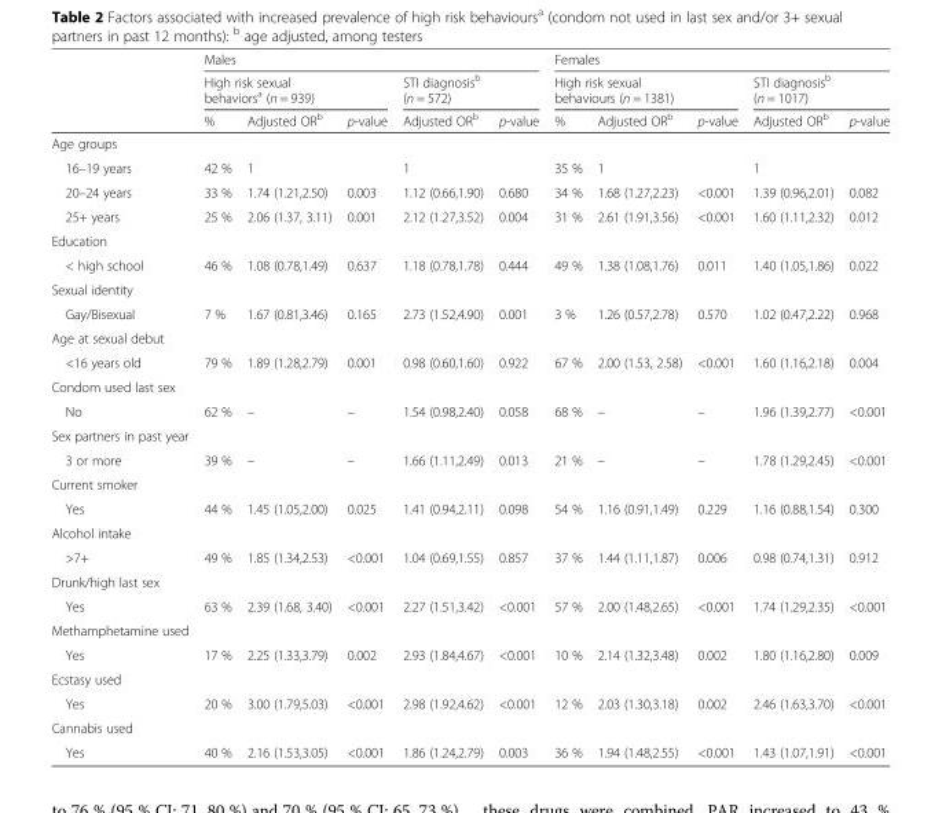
<table><thead><tr><td rowspan="3"></td><td colspan="5">Males</td><td colspan="5">Females</td></tr><tr><td colspan="3">High risk sexual behaviors<sup>a</sup> (n = 939)</td><td colspan="2">STI diagnosis<sup>b</sup> (n = 572)</td><td colspan="3">High risk sexual behaviours (n = 1381)</td><td colspan="2">STI diagnosis<sup>b</sup> (n = 1017)</td></tr><tr><td>%</td><td>Adjusted OR<sup>b</sup></td><td>p-value</td><td>Adjusted OR<sup>b</sup></td><td>p-value</td><td>%</td><td>Adjusted OR<sup>b</sup></td><td>p-value</td><td>Adjusted OR<sup>b</sup></td><td>p-value</td></tr></thead><tbody><tr><td colspan="11">Age groups</td></tr><tr><td>16–19 years</td><td>42 %</td><td>1</td><td></td><td>1</td><td></td><td>35 %</td><td>1</td><td></td><td>1</td><td></td></tr><tr><td>20–24 years</td><td>33 %</td><td>1.74 (1.21,2.50)</td><td>0.003</td><td>1.12 (0.66,1.90)</td><td>0.680</td><td>34 %</td><td>1.68 (1.27,2.23)</td><td>&lt;0.001</td><td>1.39 (0.96,2.01)</td><td>0.082</td></tr><tr><td>25+ years</td><td>25 %</td><td>2.06 (1.37, 3.11)</td><td>0.001</td><td>2.12 (1.27,3.52)</td><td>0.004</td><td>31 %</td><td>2.61 (1.91,3.56)</td><td>&lt;0.001</td><td>1.60 (1.11,2.32)</td><td>0.012</td></tr><tr><td colspan="11">Education</td></tr><tr><td>&lt; high school</td><td>46 %</td><td>1.08 (0.78,1.49)</td><td>0.637</td><td>1.18 (0.78,1.78)</td><td>0.444</td><td>49 %</td><td>1.38 (1.08,1.76)</td><td>0.011</td><td>1.40 (1.05,1.86)</td><td>0.022</td></tr><tr><td colspan="11">Sexual identity</td></tr><tr><td>Gay/Bisexual</td><td>7 %</td><td>1.67 (0.81,3.46)</td><td>0.165</td><td>2.73 (1.52,4.90)</td><td>0.001</td><td>3 %</td><td>1.26 (0.57,2.78)</td><td>0.570</td><td>1.02 (0.47,2.22)</td><td>0.968</td></tr><tr><td colspan="11">Age at sexual debut</td></tr><tr><td>&lt;16 years old</td><td>79 %</td><td>1.89 (1.28,2.79)</td><td>0.001</td><td>0.98 (0.60,1.60)</td><td>0.922</td><td>67 %</td><td>2.00 (1.53, 2.58)</td><td>&lt;0.001</td><td>1.60 (1.16,2.18)</td><td>0.004</td></tr><tr><td colspan="11">Condom used last sex</td></tr><tr><td>No</td><td>62 %</td><td>–</td><td>–</td><td>1.54 (0.98,2.40)</td><td>0.058</td><td>68 %</td><td>–</td><td>–</td><td>1.96 (1.39,2.77)</td><td>&lt;0.001</td></tr><tr><td colspan="11">Sex partners in past year</td></tr><tr><td>3 or more</td><td>39 %</td><td>–</td><td>–</td><td>1.66 (1.11,2.49)</td><td>0.013</td><td>21 %</td><td>–</td><td>–</td><td>1.78 (1.29,2.45)</td><td>&lt;0.001</td></tr><tr><td colspan="11">Current smoker</td></tr><tr><td>Yes</td><td>44 %</td><td>1.45 (1.05,2.00)</td><td>0.025</td><td>1.41 (0.94,2.11)</td><td>0.098</td><td>54 %</td><td>1.16 (0.91,1.49)</td><td>0.229</td><td>1.16 (0.88,1.54)</td><td>0.300</td></tr><tr><td colspan="11">Alcohol intake</td></tr><tr><td>&gt;7+</td><td>49 %</td><td>1.85 (1.34,2.53)</td><td>&lt;0.001</td><td>1.04 (0.69,1.55)</td><td>0.857</td><td>37 %</td><td>1.44 (1.11,1.87)</td><td>0.006</td><td>0.98 (0.74,1.31)</td><td>0.912</td></tr><tr><td colspan="11">Drunk/high last sex</td></tr><tr><td>Yes</td><td>63 %</td><td>2.39 (1.68, 3.40)</td><td>&lt;0.001</td><td>2.27 (1.51,3.42)</td><td>&lt;0.001</td><td>57 %</td><td>2.00 (1.48,2.65)</td><td>&lt;0.001</td><td>1.74 (1.29,2.35)</td><td>&lt;0.001</td></tr><tr><td colspan="11">Methamphetamine used</td></tr><tr><td>Yes</td><td>17 %</td><td>2.25 (1.33,3.79)</td><td>0.002</td><td>2.93 (1.84,4.67)</td><td>&lt;0.001</td><td>10 %</td><td>2.14 (1.32,3.48)</td><td>0.002</td><td>1.80 (1.16,2.80)</td><td>0.009</td></tr><tr><td colspan="11">Ecstasy used</td></tr><tr><td>Yes</td><td>20 %</td><td>3.00 (1.79,5.03)</td><td>&lt;0.001</td><td>2.98 (1.92,4.62)</td><td>&lt;0.001</td><td>12 %</td><td>2.03 (1.30,3.18)</td><td>0.002</td><td>2.46 (1.63,3.70)</td><td>&lt;0.001</td></tr><tr><td colspan="11">Cannabis used</td></tr><tr><td>Yes</td><td>40 %</td><td>2.16 (1.53,3.05)</td><td>&lt;0.001</td><td>1.86 (1.24,2.79)</td><td>0.003</td><td>36 %</td><td>1.94 (1.48,2.55)</td><td>&lt;0.001</td><td>1.43 (1.07,1.91)</td><td>&lt;0.001</td></tr></tbody></table>